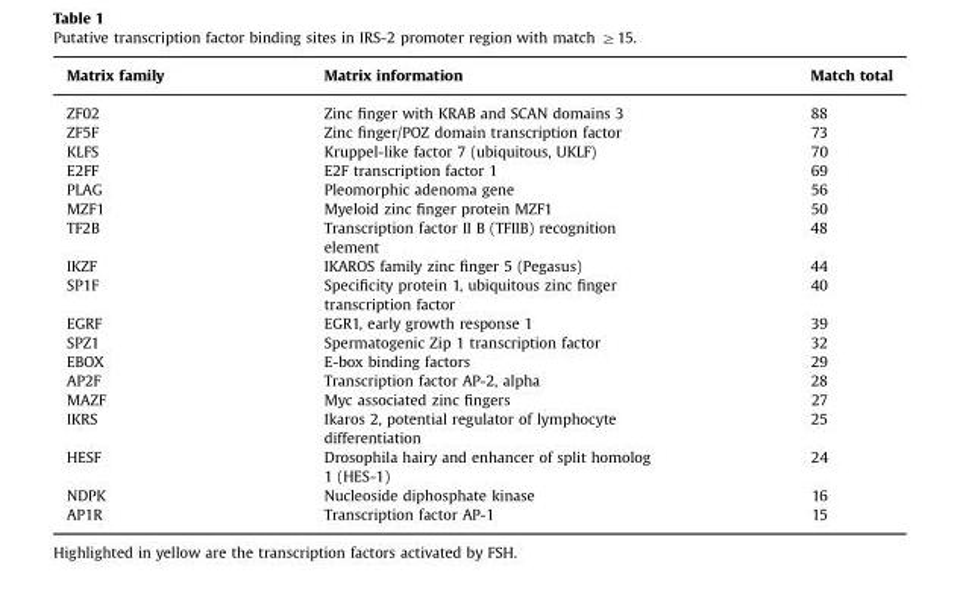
<table><thead><tr><td>Matrix family</td><td>Matrix information</td><td>Match total</td></tr></thead><tbody><tr><td>ZF02</td><td>Zinc finger with KRAB and SCAN domains 3</td><td>88</td></tr><tr><td>ZF5F</td><td>Zinc finger/POZ domain transcription factor</td><td>73</td></tr><tr><td>KLFS</td><td>Kruppel-like factor 7 (ubiquitous, UKLF)</td><td>70</td></tr><tr><td>E2FF</td><td>E2F transcription factor 1</td><td>69</td></tr><tr><td>PLAG</td><td>Pleomorphic adenoma gene</td><td>56</td></tr><tr><td>MZF1</td><td>Myeloid zinc finger protein MZF1</td><td>50</td></tr><tr><td>TF2B</td><td>Transcription factor II B (TFIIB) recognition element</td><td>48</td></tr><tr><td>IKZF</td><td>IKAROS family zinc finger 5 (Pegasus)</td><td>44</td></tr><tr><td>SP1F</td><td>Specificity protein 1, ubiquitous zinc finger transcription factor</td><td>40</td></tr><tr><td>EGRF</td><td>EGR1, early growth response 1</td><td>39</td></tr><tr><td>SPZ1</td><td>Spermatogenic Zip 1 transcription factor</td><td>32</td></tr><tr><td>EBOX</td><td>E-box binding factors</td><td>29</td></tr><tr><td>AP2F</td><td>Transcription factor AP-2, alpha</td><td>28</td></tr><tr><td>MAZF</td><td>Myc associated zinc fingers</td><td>27</td></tr><tr><td>IKRS</td><td>Ikaros 2, potential regulator of lymphocyte differentiation</td><td>25</td></tr><tr><td>HESF</td><td>Drosophila hairy and enhancer of split homolog 1 (HES-1)</td><td>24</td></tr><tr><td>NDPK</td><td>Nucleoside diphosphate kinase</td><td>16</td></tr><tr><td>AP1R</td><td>Transcription factor AP-1</td><td>15</td></tr></tbody></table>